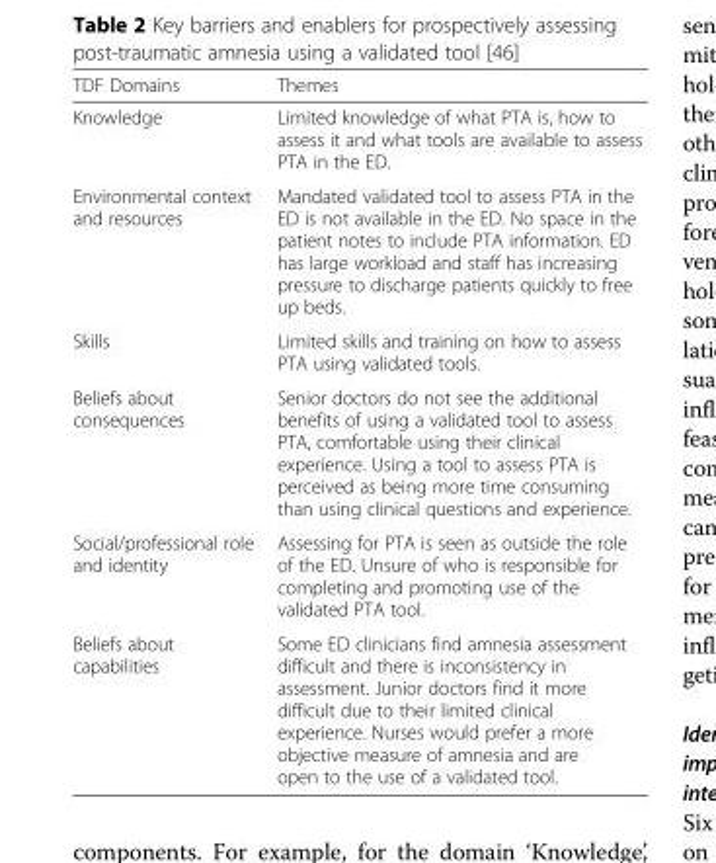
<table><thead><tr><td>TDF Domains</td><td>Themes</td></tr></thead><tbody><tr><td>Knowledge</td><td>Limited knowledge of what PTA is, how to assess it and what tools are available to assess PTA in the ED.</td></tr><tr><td>Environmental context and resources</td><td>Mandated validated tool to assess PTA in the ED is not available in the ED. No space in the patient notes to include PTA information. ED has large workload and staff has increasing pressure to discharge patients quickly to free up beds.</td></tr><tr><td>Skills</td><td>Limited skills and training on how to assess PTA using validated tools.</td></tr><tr><td>Beliefs about consequences</td><td>Senior doctors do not see the additional benefits of using a validated tool to assess PTA, comfortable using their clinical experience. Using a tool to assess PTA is perceived as being more time consuming than using clinical questions and experience.</td></tr><tr><td>Social/professional role and identity</td><td>Assessing for PTA is seen as outside the role of the ED. Unsure of who is responsible for completing and promoting use of the validated PTA tool.</td></tr><tr><td>Beliefs about capabilities</td><td>Some ED clinicians find amnesia assessment difficult and there is inconsistency in assessment. Junior doctors find it more difficult due to their limited clinical experience. Nurses would prefer a more objective measure of amnesia and are open to the use of a validated tool.</td></tr></tbody></table>